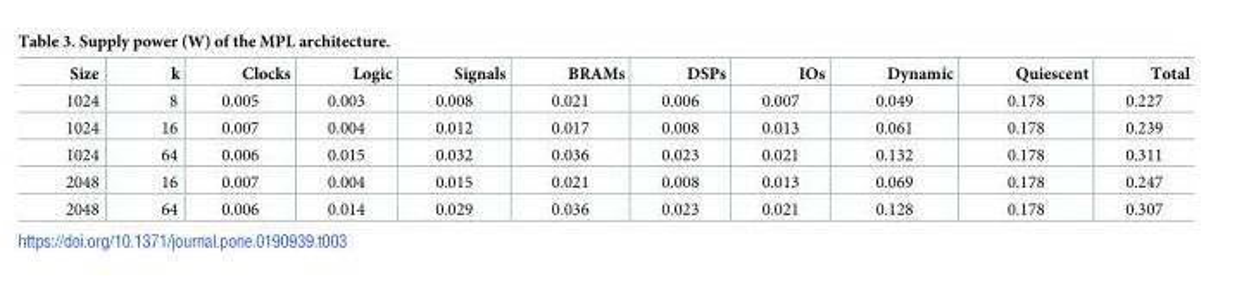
<table><thead><tr><td>Size</td><td>k</td><td>Clocks</td><td>Logic</td><td>Signals</td><td>BRAMs</td><td>DSPs</td><td>IOs</td><td>Dynamic</td><td>Quiescent</td><td>Total</td></tr></thead><tbody><tr><td>1024</td><td>8</td><td>0.005</td><td>0.003</td><td>0.008</td><td>0.021</td><td>0.006</td><td>0.007</td><td>0.049</td><td>0.178</td><td>0.227</td></tr><tr><td>1024</td><td>16</td><td>0.007</td><td>0.004</td><td>0.012</td><td>0.017</td><td>0.008</td><td>0.013</td><td>0.061</td><td>0.178</td><td>0.239</td></tr><tr><td>1024</td><td>64</td><td>0.006</td><td>0.015</td><td>0.032</td><td>0.036</td><td>0.023</td><td>0.021</td><td>0.132</td><td>0.178</td><td>0.311</td></tr><tr><td>2048</td><td>16</td><td>0.007</td><td>0.004</td><td>0.015</td><td>0.021</td><td>0.008</td><td>0.013</td><td>0.069</td><td>0.178</td><td>0.247</td></tr><tr><td>2048</td><td>64</td><td>0.006</td><td>0.014</td><td>0.029</td><td>0.036</td><td>0.023</td><td>0.021</td><td>0.128</td><td>0.178</td><td>0.307</td></tr></tbody></table>